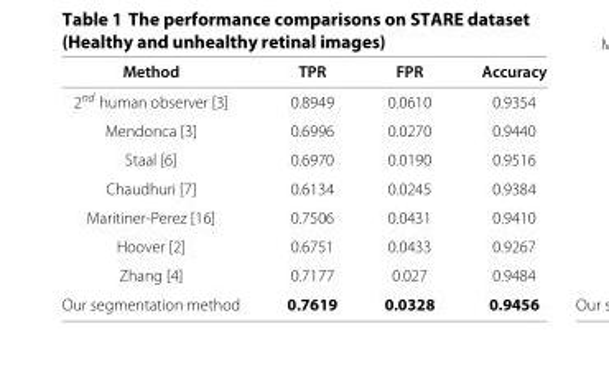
<table><thead><tr><td>Method</td><td>TPR</td><td>FPR</td><td>Accuracy</td></tr></thead><tbody><tr><td>2<sup>nd</sup> human observer [3]</td><td>0.8949</td><td>0.0610</td><td>0.9354</td></tr><tr><td>Mendonca [3]</td><td>0.6996</td><td>0.0270</td><td>0.9440</td></tr><tr><td>Staal [6]</td><td>0.6970</td><td>0.0190</td><td>0.9516</td></tr><tr><td>Chaudhuri [7]</td><td>0.6134</td><td>0.0245</td><td>0.9384</td></tr><tr><td>Maritiner-Perez [16]</td><td>0.7506</td><td>0.0431</td><td>0.9410</td></tr><tr><td>Hoover [2]</td><td>0.6751</td><td>0.0433</td><td>0.9267</td></tr><tr><td>Zhang [4]</td><td>0.7177</td><td>0.027</td><td>0.9484</td></tr><tr><td>Our segmentation method</td><td>0.7619</td><td>0.0328</td><td>0.9456</td></tr></tbody></table>